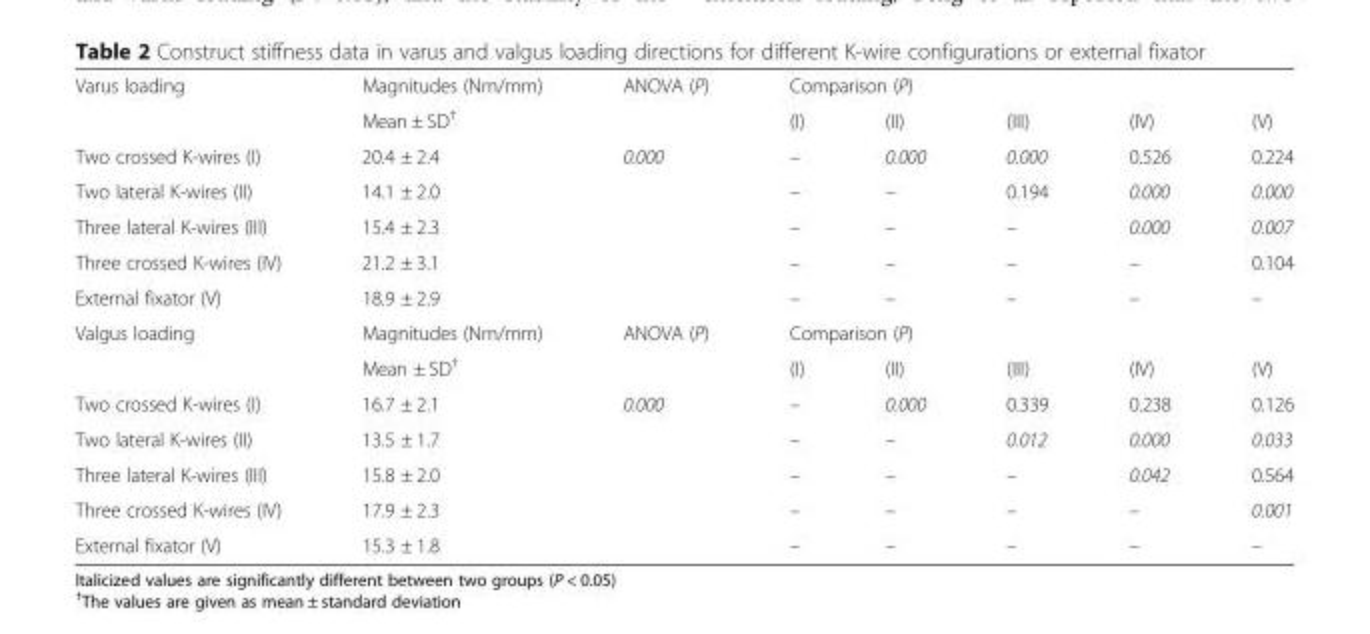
<table><tbody><tr><td rowspan="2">Varus loading</td><td>Magnitudes (Nm/mm)</td><td rowspan="2">ANOVA (P)</td><td colspan="5">Comparison (P)</td></tr><tr><td>Mean ± SD<sup>†</sup></td><td>(I)</td><td>(II)</td><td>(III)</td><td>(IV)</td><td>(V)</td></tr><tr><td>Two crossed K-wires (I)</td><td>20.4 ± 2.4</td><td rowspan="5">0.000</td><td>–</td><td>0.000</td><td>0.000</td><td>0.526</td><td>0.224</td></tr><tr><td>Two lateral K-wires (II)</td><td>14.1 ± 2.0</td><td>–</td><td>–</td><td>0.194</td><td>0.000</td><td>0.000</td></tr><tr><td>Three lateral K-wires (III)</td><td>15.4 ± 2.3</td><td>–</td><td>–</td><td>–</td><td>0.000</td><td>0.007</td></tr><tr><td>Three crossed K-wires (IV)</td><td>21.2 ± 3.1</td><td>–</td><td>–</td><td>–</td><td>–</td><td>0.104</td></tr><tr><td>External fixator (V)</td><td>18.9 ± 2.9</td><td>–</td><td>–</td><td>–</td><td>–</td><td>–</td></tr><tr><td rowspan="2">Valgus loading</td><td>Magnitudes (Nm/mm)</td><td rowspan="2">ANOVA (P)</td><td colspan="5">Comparison (P)</td></tr><tr><td>Mean ± SD<sup>†</sup></td><td>(I)</td><td>(II)</td><td>(III)</td><td>(IV)</td><td>(V)</td></tr><tr><td>Two crossed K-wires (I)</td><td>16.7 ± 2.1</td><td rowspan="5">0.000</td><td>–</td><td>0.000</td><td>0.339</td><td>0.238</td><td>0.126</td></tr><tr><td>Two lateral K-wires (II)</td><td>13.5 ± 1.7</td><td>–</td><td>–</td><td>0.012</td><td>0.000</td><td>0.033</td></tr><tr><td>Three lateral K-wires (III)</td><td>15.8 ± 2.0</td><td>–</td><td>–</td><td>–</td><td>0.042</td><td>0.564</td></tr><tr><td>Three crossed K-wires (IV)</td><td>17.9 ± 2.3</td><td>–</td><td>–</td><td>–</td><td>–</td><td>0.001</td></tr><tr><td>External fixator (V)</td><td>15.3 ± 1.8</td><td>–</td><td>–</td><td>–</td><td>–</td><td>–</td></tr></tbody></table>